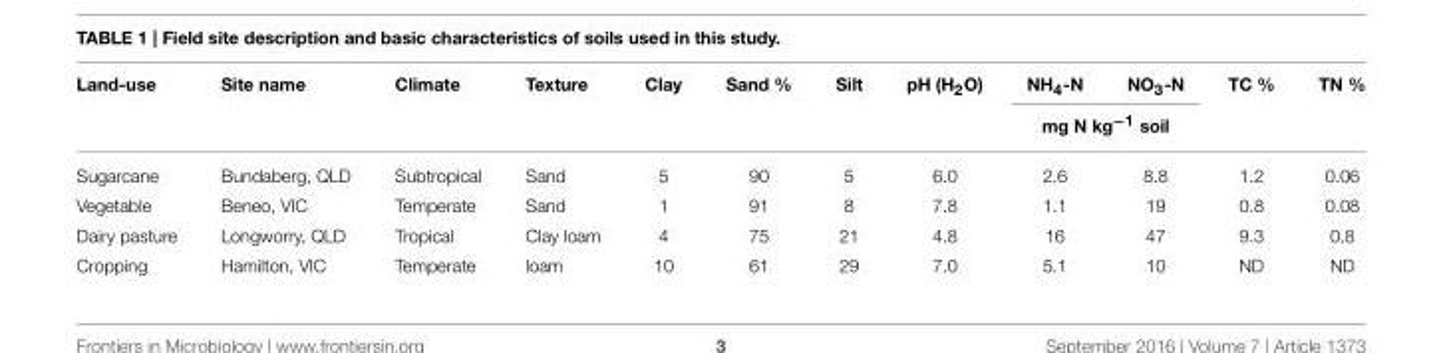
<table><thead><tr><td rowspan="2">Land-use</td><td rowspan="2">Site name</td><td rowspan="2">Climate</td><td rowspan="2">Texture</td><td rowspan="2">Clay</td><td rowspan="2">Sand %</td><td rowspan="2">Silt</td><td rowspan="2">pH (H<sub>2</sub>O)</td><td>NH<sub>4</sub>-N</td><td>NO<sub>3</sub>-N</td><td rowspan="2">TC %</td><td rowspan="2">TN %</td></tr><tr><td colspan="2">mg N kg<sup>−1</sup> soil</td></tr></thead><tbody><tr><td>Sugarcane</td><td>Bundaberg, QLD</td><td>Subtropical</td><td>Sand</td><td>5</td><td>90</td><td>5</td><td>6.0</td><td>2.6</td><td>8.8</td><td>1.2</td><td>0.06</td></tr><tr><td>Vegetable</td><td>Beneo, VIC</td><td>Temperate</td><td>Sand</td><td>1</td><td>91</td><td>8</td><td>7.8</td><td>1.1</td><td>19</td><td>0.8</td><td>0.08</td></tr><tr><td>Dairy pasture</td><td>Longworry, QLD</td><td>Tropical</td><td>Clay loam</td><td>4</td><td>75</td><td>21</td><td>4.8</td><td>16</td><td>47</td><td>9.3</td><td>0.8</td></tr><tr><td>Cropping</td><td>Hamilton, VIC</td><td>Temperate</td><td>loam</td><td>10</td><td>61</td><td>29</td><td>7.0</td><td>5.1</td><td>10</td><td>ND</td><td>ND</td></tr></tbody></table>